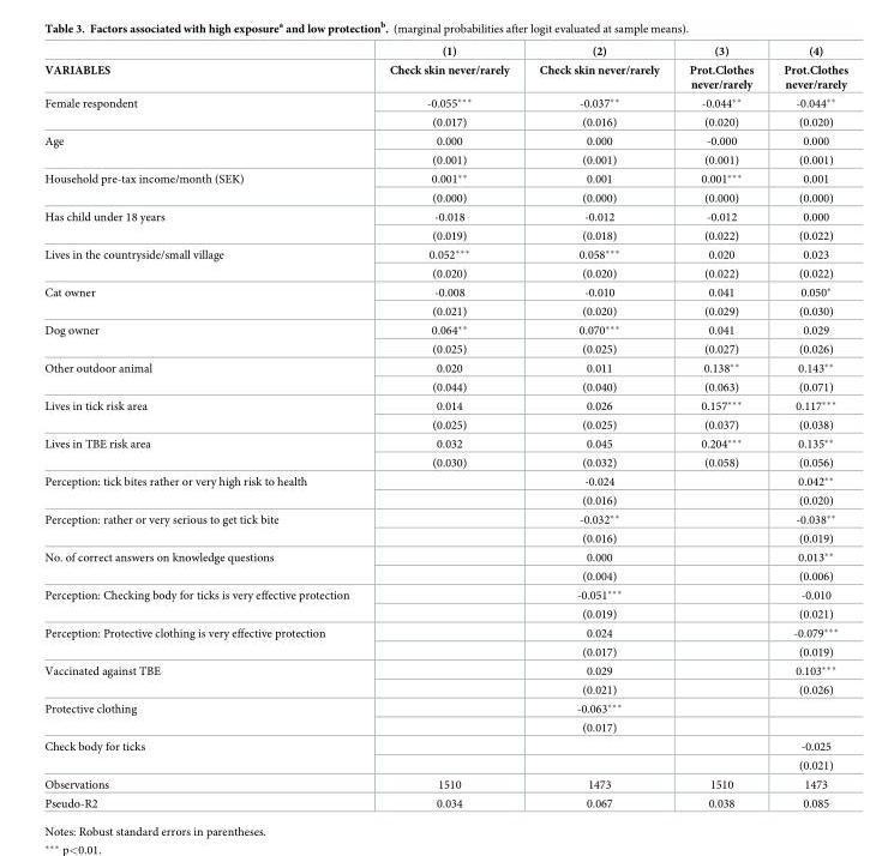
<table><thead><tr><td rowspan="2">VARIABLES</td><td rowspan="2">(1) Check skin never/rarely</td><td rowspan="2">(2) Check skin never/rarely</td><td rowspan="2">(3) Prot.Clothes never/rarely</td><td rowspan="2">(4) Prot.Clothes never/rarely</td></tr><tr></tr></thead><tbody><tr><td rowspan="2">Female respondent</td><td>-0.055***</td><td>-0.037**</td><td>-0.044**</td><td>-0.044**</td></tr><tr><td>(0.017)</td><td>(0.016)</td><td>(0.020)</td><td>(0.020)</td></tr><tr><td rowspan="2">Age</td><td>0.000</td><td>0.000</td><td>-0.000</td><td>0.000</td></tr><tr><td>(0.001)</td><td>(0.001)</td><td>(0.001)</td><td>(0.001)</td></tr><tr><td rowspan="2">Household pre-tax income/month (SEK)</td><td>0.001**</td><td>0.001</td><td>0.001***</td><td>0.001</td></tr><tr><td>(0.000)</td><td>(0.000)</td><td>(0.000)</td><td>(0.000)</td></tr><tr><td rowspan="2">Has child under 18 years</td><td>-0.018</td><td>-0.012</td><td>-0.012</td><td>0.000</td></tr><tr><td>(0.019)</td><td>(0.018)</td><td>(0.022)</td><td>(0.022)</td></tr><tr><td rowspan="2">Lives in the countryside/small village</td><td>0.052***</td><td>0.058***</td><td>0.020</td><td>0.023</td></tr><tr><td>(0.020)</td><td>(0.020)</td><td>(0.022)</td><td>(0.022)</td></tr><tr><td rowspan="2">Cat owner</td><td>-0.008</td><td>-0.010</td><td>0.041</td><td>0.050*</td></tr><tr><td>(0.021)</td><td>(0.020)</td><td>(0.029)</td><td>(0.030)</td></tr><tr><td rowspan="2">Dog owner</td><td>0.064**</td><td>0.070***</td><td>0.041</td><td>0.029</td></tr><tr><td>(0.025)</td><td>(0.025)</td><td>(0.027)</td><td>(0.026)</td></tr><tr><td rowspan="2">Other outdoor animal</td><td>0.020</td><td>0.011</td><td>0.138**</td><td>0.143**</td></tr><tr><td>(0.044)</td><td>(0.040)</td><td>(0.063)</td><td>(0.071)</td></tr><tr><td rowspan="2">Lives in tick risk area</td><td>0.014</td><td>0.026</td><td>0.157***</td><td>0.117***</td></tr><tr><td>(0.025)</td><td>(0.025)</td><td>(0.037)</td><td>(0.038)</td></tr><tr><td rowspan="2">Lives in TBE risk area</td><td>0.032</td><td>0.045</td><td>0.204***</td><td>0.135**</td></tr><tr><td>(0.030)</td><td>(0.032)</td><td>(0.058)</td><td>(0.056)</td></tr><tr><td rowspan="2">Perception: tick bites rather or very high risk to health</td><td></td><td>-0.024</td><td></td><td>0.042**</td></tr><tr><td></td><td>(0.016)</td><td></td><td>(0.020)</td></tr><tr><td rowspan="2">Perception: rather or very serious to get tick bite</td><td></td><td>-0.032**</td><td></td><td>-0.038**</td></tr><tr><td></td><td>(0.016)</td><td></td><td>(0.019)</td></tr><tr><td rowspan="2">No. of correct answers on knowledge questions</td><td></td><td>0.000</td><td></td><td>0.013**</td></tr><tr><td></td><td>(0.004)</td><td></td><td>(0.006)</td></tr><tr><td rowspan="2">Perception: Checking body for ticks is very effective protection</td><td></td><td>-0.051***</td><td></td><td>-0.010</td></tr><tr><td></td><td>(0.019)</td><td></td><td>(0.021)</td></tr><tr><td rowspan="2">Perception: Protective clothing is very effective protection</td><td></td><td>0.024</td><td></td><td>-0.079***</td></tr><tr><td></td><td>(0.017)</td><td></td><td>(0.019)</td></tr><tr><td rowspan="2">Vaccinated against TBE</td><td></td><td>0.029</td><td></td><td>0.103***</td></tr><tr><td></td><td>(0.021)</td><td></td><td>(0.026)</td></tr><tr><td rowspan="2">Protective clothing</td><td></td><td>-0.063***</td><td></td><td></td></tr><tr><td></td><td>(0.017)</td><td></td><td></td></tr><tr><td rowspan="2">Check body for ticks</td><td></td><td></td><td></td><td>-0.025</td></tr><tr><td></td><td></td><td></td><td>(0.021)</td></tr><tr><td>Observations</td><td>1510</td><td>1473</td><td>1510</td><td>1473</td></tr><tr><td>Pseudo-R2</td><td>0.034</td><td>0.067</td><td>0.038</td><td>0.085</td></tr></tbody></table>